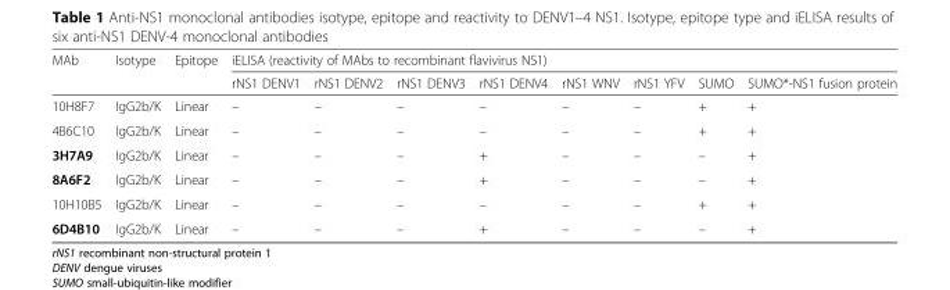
<table><thead><tr><td rowspan="2">MAb</td><td rowspan="2">Isotype</td><td rowspan="2">Epitope</td><td colspan="8">iELISA (reactivity of MAbs to recombinant flavivirus NS1)</td></tr><tr><td>rNS1 DENV1</td><td>rNS1 DENV2</td><td>rNS1 DENV3</td><td>rNS1 DENV4</td><td>rNS1 WNV</td><td>rNS1 YFV</td><td>SUMO</td><td>SUMO*-NS1 fusion protein</td></tr></thead><tbody><tr><td>10H8F7</td><td>IgG2b/K</td><td>Linear</td><td>–</td><td>–</td><td>–</td><td>–</td><td>–</td><td>–</td><td>+</td><td>+</td></tr><tr><td>4B6C10</td><td>IgG2b/K</td><td>Linear</td><td>–</td><td>–</td><td>–</td><td>–</td><td>–</td><td>–</td><td>+</td><td>+</td></tr><tr><td>3H7A9</td><td>IgG2b/K</td><td>Linear</td><td>–</td><td>–</td><td>–</td><td>+</td><td>–</td><td>–</td><td>–</td><td>+</td></tr><tr><td>8A6F2</td><td>IgG2b/K</td><td>Linear</td><td>–</td><td>–</td><td>–</td><td>+</td><td>–</td><td>–</td><td>–</td><td>+</td></tr><tr><td>10H10B5</td><td>IgG2b/K</td><td>Linear</td><td>–</td><td>–</td><td>–</td><td>–</td><td>–</td><td>–</td><td>+</td><td>+</td></tr><tr><td>6D4B10</td><td>IgG2b/K</td><td>Linear</td><td>–</td><td>–</td><td>–</td><td>+</td><td>–</td><td>–</td><td>–</td><td>+</td></tr></tbody></table>